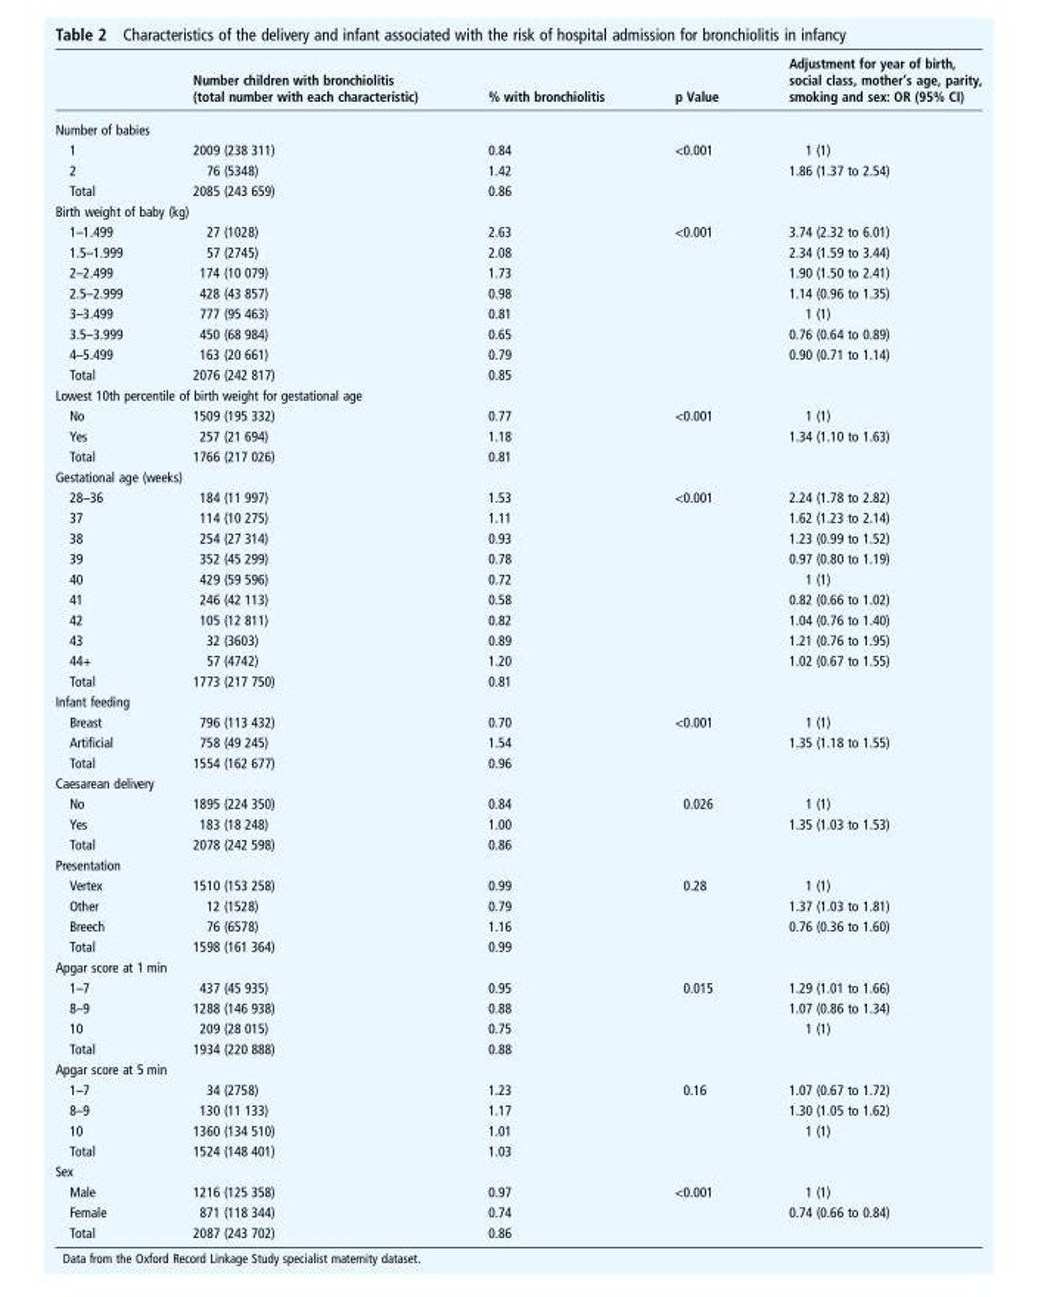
<table><thead><tr><td></td><td>Number children with bronchiolitis (total number with each characteristic)</td><td>% with bronchiolitis</td><td>p Value</td><td>Adjustment for year of birth, social class, mother’s age, parity, smoking and sex: OR (95% CI)</td></tr></thead><tbody><tr><td colspan="5">Number of babies</td></tr><tr><td>1</td><td>2009 (238 311)</td><td>0.84</td><td>&lt;0.001</td><td>1 (1)</td></tr><tr><td>2</td><td>76 (5348)</td><td>1.42</td><td></td><td>1.86 (1.37 to 2.54)</td></tr><tr><td>Total</td><td>2085 (243 659)</td><td>0.86</td><td></td><td></td></tr><tr><td colspan="5">Birth weight of baby (kg)</td></tr><tr><td>1–1.499</td><td>27 (1028)</td><td>2.63</td><td>&lt;0.001</td><td>3.74 (2.32 to 6.01)</td></tr><tr><td>1.5–1.999</td><td>57 (2745)</td><td>2.08</td><td></td><td>2.34 (1.59 to 3.44)</td></tr><tr><td>2–2.499</td><td>174 (10 079)</td><td>1.73</td><td></td><td>1.90 (1.50 to 2.41)</td></tr><tr><td>2.5–2.999</td><td>428 (43 857)</td><td>0.98</td><td></td><td>1.14 (0.96 to 1.35)</td></tr><tr><td>3–3.499</td><td>777 (95 463)</td><td>0.81</td><td></td><td>1 (1)</td></tr><tr><td>3.5–3.999</td><td>450 (68 984)</td><td>0.65</td><td></td><td>0.76 (0.64 to 0.89)</td></tr><tr><td>4–5.499</td><td>163 (20 661)</td><td>0.79</td><td></td><td>0.90 (0.71 to 1.14)</td></tr><tr><td>Total</td><td>2076 (242 817)</td><td>0.85</td><td></td><td></td></tr><tr><td colspan="5">Lowest 10th percentile of birth weight for gestational age</td></tr><tr><td>No</td><td>1509 (195 332)</td><td>0.77</td><td>&lt;0.001</td><td>1 (1)</td></tr><tr><td>Yes</td><td>257 (21 694)</td><td>1.18</td><td></td><td>1.34 (1.10 to 1.63)</td></tr><tr><td>Total</td><td>1766 (217 026)</td><td>0.81</td><td></td><td></td></tr><tr><td colspan="5">Gestational age (weeks)</td></tr><tr><td>28–36</td><td>184 (11 997)</td><td>1.53</td><td>&lt;0.001</td><td>2.24 (1.78 to 2.82)</td></tr><tr><td>37</td><td>114 (10 275)</td><td>1.11</td><td></td><td>1.62 (1.23 to 2.14)</td></tr><tr><td>38</td><td>254 (27 314)</td><td>0.93</td><td></td><td>1.23 (0.99 to 1.52)</td></tr><tr><td>39</td><td>352 (45 299)</td><td>0.78</td><td></td><td>0.97 (0.80 to 1.19)</td></tr><tr><td>40</td><td>429 (59 596)</td><td>0.72</td><td></td><td>1 (1)</td></tr><tr><td>41</td><td>246 (42 113)</td><td>0.58</td><td></td><td>0.82 (0.66 to 1.02)</td></tr><tr><td>42</td><td>105 (12 811)</td><td>0.82</td><td></td><td>1.04 (0.76 to 1.40)</td></tr><tr><td>43</td><td>32 (3603)</td><td>0.89</td><td></td><td>1.21 (0.76 to 1.95)</td></tr><tr><td>44+</td><td>57 (4742)</td><td>1.20</td><td></td><td>1.02 (0.67 to 1.55)</td></tr><tr><td>Total</td><td>1773 (217 750)</td><td>0.81</td><td></td><td></td></tr><tr><td colspan="5">Infant feeding</td></tr><tr><td>Breast</td><td>796 (113 432)</td><td>0.70</td><td>&lt;0.001</td><td>1 (1)</td></tr><tr><td>Artificial</td><td>758 (49 245)</td><td>1.54</td><td></td><td>1.35 (1.18 to 1.55)</td></tr><tr><td>Total</td><td>1554 (162 677)</td><td>0.96</td><td></td><td></td></tr><tr><td colspan="5">Caesarean delivery</td></tr><tr><td>No</td><td>1895 (224 350)</td><td>0.84</td><td>0.026</td><td>1 (1)</td></tr><tr><td>Yes</td><td>183 (18 248)</td><td>1.00</td><td></td><td>1.35 (1.03 to 1.53)</td></tr><tr><td>Total</td><td>2078 (242 598)</td><td>0.86</td><td></td><td></td></tr><tr><td colspan="5">Presentation</td></tr><tr><td>Vertex</td><td>1510 (153 258)</td><td>0.99</td><td>0.28</td><td>1 (1)</td></tr><tr><td>Other</td><td>12 (1528)</td><td>0.79</td><td></td><td>1.37 (1.03 to 1.81)</td></tr><tr><td>Breech</td><td>76 (6578)</td><td>1.16</td><td></td><td>0.76 (0.36 to 1.60)</td></tr><tr><td>Total</td><td>1598 (161 364)</td><td>0.99</td><td></td><td></td></tr><tr><td colspan="5">Apgar score at 1 min</td></tr><tr><td>1–7</td><td>437 (45 935)</td><td>0.95</td><td>0.015</td><td>1.29 (1.01 to 1.66)</td></tr><tr><td>8–9</td><td>1288 (146 938)</td><td>0.88</td><td></td><td>1.07 (0.86 to 1.34)</td></tr><tr><td>10</td><td>209 (28 015)</td><td>0.75</td><td></td><td>1 (1)</td></tr><tr><td>Total</td><td>1934 (220 888)</td><td>0.88</td><td></td><td></td></tr><tr><td colspan="5">Apgar score at 5 min</td></tr><tr><td>1–7</td><td>34 (2758)</td><td>1.23</td><td>0.16</td><td>1.07 (0.67 to 1.72)</td></tr><tr><td>8–9</td><td>130 (11 133)</td><td>1.17</td><td></td><td>1.30 (1.05 to 1.62)</td></tr><tr><td>10</td><td>1360 (134 510)</td><td>1.01</td><td></td><td>1 (1)</td></tr><tr><td>Total</td><td>1524 (148 401)</td><td>1.03</td><td></td><td></td></tr><tr><td colspan="5">Sex</td></tr><tr><td>Male</td><td>1216 (125 358)</td><td>0.97</td><td>&lt;0.001</td><td>1 (1)</td></tr><tr><td>Female</td><td>871 (118 344)</td><td>0.74</td><td></td><td>0.74 (0.66 to 0.84)</td></tr><tr><td>Total</td><td>2087 (243 702)</td><td>0.86</td><td></td><td></td></tr></tbody></table>